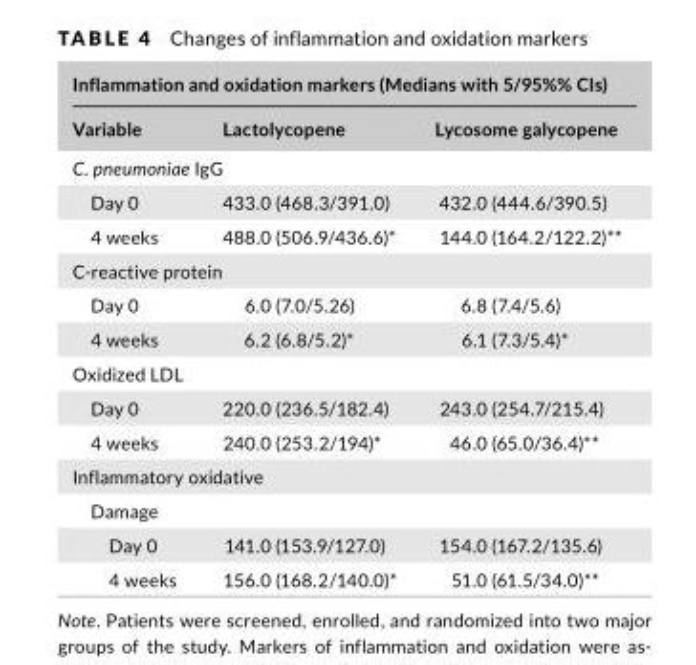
<table><thead><tr><td colspan="3">Inflammation and oxidation markers (Medians with 5/95%% CIs)</td></tr><tr><td>Variable</td><td>Lactolycopene</td><td>Lycosome galycopene</td></tr></thead><tbody><tr><td colspan="3">C. pneumoniae IgG</td></tr><tr><td>Day 0</td><td>433.0 (468.3/391.0)</td><td>432.0 (444.6/390.5)</td></tr><tr><td>4 weeks</td><td>488.0 (506.9/436.6)*</td><td>144.0 (164.2/122.2)**</td></tr><tr><td colspan="3">C- reactive protein</td></tr><tr><td>Day 0</td><td>6.0 (7.0/5.26)</td><td>6.8 (7.4/5.6)</td></tr><tr><td>4 weeks</td><td>6.2 (6.8/5.2)*</td><td>6.1 (7.3/5.4)*</td></tr><tr><td colspan="3">Oxidized LDL</td></tr><tr><td>Day 0</td><td>220.0 (236.5/182.4)</td><td>243.0 (254.7/215.4)</td></tr><tr><td>4 weeks</td><td>240.0 (253.2/194)*</td><td>46.0 (65.0/36.4)**</td></tr><tr><td colspan="3">Inflammatory oxidative</td></tr><tr><td colspan="3">Damage</td></tr><tr><td>Day 0</td><td>141.0 (153.9/127.0)</td><td>154.0 (167.2/135.6)</td></tr><tr><td>4 weeks</td><td>156.0 (168.2/140.0)*</td><td>51.0 (61.5/34.0)**</td></tr></tbody></table>